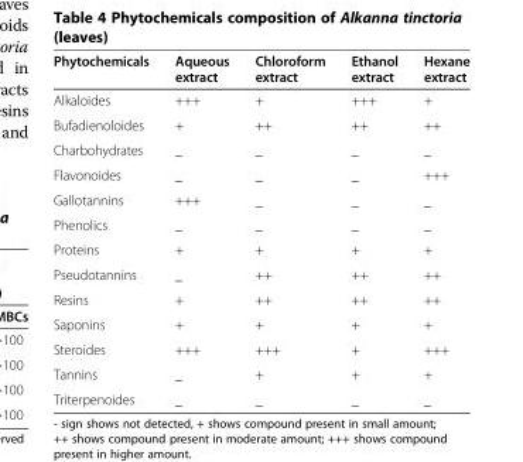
<table><thead><tr><td>Phytochemicals</td><td>Aqueous extract</td><td>Chloroform extract</td><td>Ethanol extract</td><td>Hexane extract</td></tr></thead><tbody><tr><td>Alkaloides</td><td>+++</td><td>+</td><td>+++</td><td>+</td></tr><tr><td>Bufadienoloides</td><td>+</td><td>++</td><td>++</td><td>++</td></tr><tr><td>Charbohydrates</td><td>_</td><td>_</td><td>_</td><td>_</td></tr><tr><td>Flavonoides</td><td>_</td><td>_</td><td>_</td><td>+++</td></tr><tr><td>Gallotannins</td><td>+++</td><td>_</td><td>_</td><td>_</td></tr><tr><td>Phenolics</td><td>_</td><td>_</td><td>_</td><td>_</td></tr><tr><td>Proteins</td><td>+</td><td>+</td><td>+</td><td>+</td></tr><tr><td>Pseudotannins</td><td>_</td><td>++</td><td>++</td><td>++</td></tr><tr><td>Resins</td><td>+</td><td>++</td><td>++</td><td>++</td></tr><tr><td>Saponins</td><td>+</td><td>+</td><td>+</td><td>+</td></tr><tr><td>Steroides</td><td>+++</td><td>+++</td><td>+</td><td>+++</td></tr><tr><td>Tannins</td><td>_</td><td>+</td><td>+</td><td>+</td></tr><tr><td>Triterpenoides</td><td>_</td><td>_</td><td>_</td><td>_</td></tr></tbody></table>